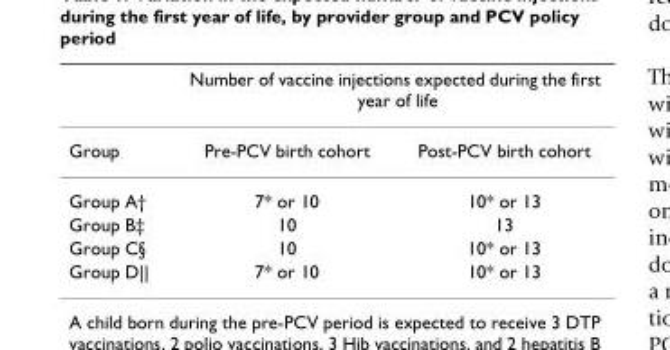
<table><thead><tr><td rowspan="2">Group</td><td colspan="2">Number of vaccine injections expected during the first year of life</td></tr><tr><td>Pre-PCV birth cohort</td><td>Post-PCV birth cohort</td></tr></thead><tbody><tr><td>Group A†</td><td>7* or 10</td><td>10* or 13</td></tr><tr><td>Group B‡</td><td>10</td><td>13</td></tr><tr><td>Group C§</td><td>10</td><td>10* or 13</td></tr><tr><td>Group D||</td><td>7* or 10</td><td>10* or 13</td></tr></tbody></table>